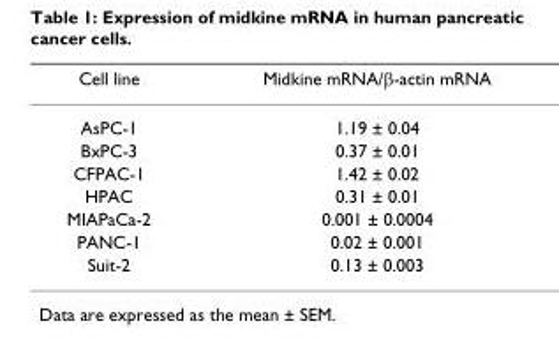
<table><thead><tr><td>Cell line</td><td>Midkine mRNA/β-actin mRNA</td></tr></thead><tbody><tr><td>AsPC-1</td><td>1.19 ± 0.04</td></tr><tr><td>BxPC-3</td><td>0.37 ± 0.01</td></tr><tr><td>CFPAC-1</td><td>1.42 ± 0.02</td></tr><tr><td>HPAC</td><td>0.31 ± 0.01</td></tr><tr><td>MIAPaCa-2</td><td>0.001 ± 0.0004</td></tr><tr><td>PANC-1</td><td>0.02 ± 0.001</td></tr><tr><td>Suit-2</td><td>0.13 ± 0.003</td></tr></tbody></table>